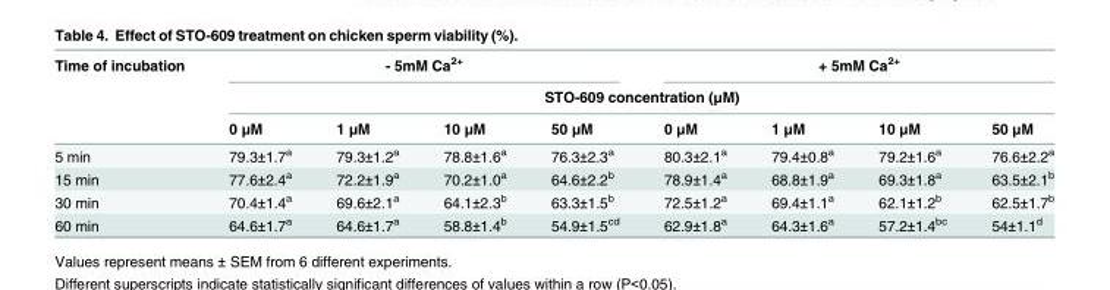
<table><thead><tr><td rowspan="3">Time of incubation</td><td colspan="4">- 5mM Ca<sup>2+</sup></td><td colspan="4">+ 5mM Ca<sup>2+</sup></td></tr><tr><td colspan="8">STO-609 concentration (μM)</td></tr><tr><td>0 μM</td><td>1 μM</td><td>10 μM</td><td>50 μM</td><td>0 μM</td><td>1 μM</td><td>10 μM</td><td>50 μM</td></tr></thead><tbody><tr><td>5 min</td><td>79.3±1.7<sup>a</sup></td><td>79.3±1.2<sup>a</sup></td><td>78.8±1.6<sup>a</sup></td><td>76.3±2.3<sup>a</sup></td><td>80.3±2.1<sup>a</sup></td><td>79.4±0.8<sup>a</sup></td><td>79.2±1.6<sup>a</sup></td><td>76.6±2.2<sup>a</sup></td></tr><tr><td>15 min</td><td>77.6±2.4<sup>a</sup></td><td>72.2±1.9<sup>a</sup></td><td>70.2±1.0<sup>a</sup></td><td>64.6±2.2<sup>b</sup></td><td>78.9±1.4<sup>a</sup></td><td>68.8±1.9<sup>a</sup></td><td>69.3±1.8<sup>a</sup></td><td>63.5±2.1<sup>b</sup></td></tr><tr><td>30 min</td><td>70.4±1.4<sup>a</sup></td><td>69.6±2.1<sup>a</sup></td><td>64.1±2.3<sup>b</sup></td><td>63.3±1.5<sup>b</sup></td><td>72.5±1.2<sup>a</sup></td><td>69.4±1.1<sup>a</sup></td><td>62.1±1.2<sup>b</sup></td><td>62.5±1.7<sup>b</sup></td></tr><tr><td>60 min</td><td>64.6±1.7<sup>a</sup></td><td>64.6±1.7<sup>a</sup></td><td>58.8±1.4<sup>b</sup></td><td>54.9±1.5<sup>cd</sup></td><td>62.9±1.8<sup>a</sup></td><td>64.3±1.6<sup>a</sup></td><td>57.2±1.4<sup>bc</sup></td><td>54±1.1<sup>d</sup></td></tr></tbody></table>